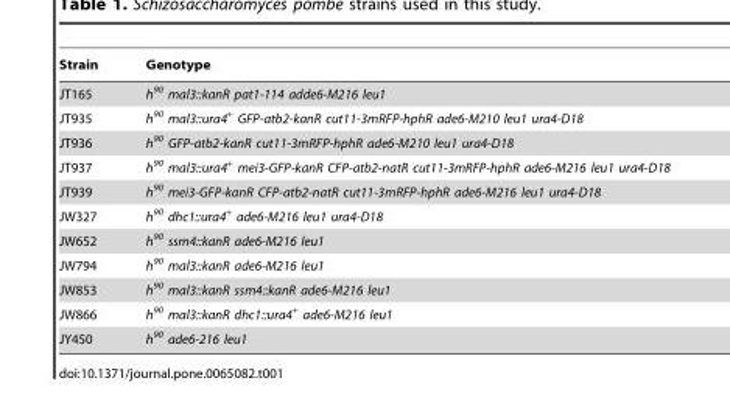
<table><thead><tr><td>Strain</td><td>Genotype</td></tr></thead><tbody><tr><td>JT165</td><td>h<sup>90</sup> mal3::kanR pat1-114 adde6-M216 leu1</td></tr><tr><td>JT935</td><td>h<sup>90</sup> mal3::ura4<sup>+</sup> GFP-atb2-kanR cut11-3mRFP-hphR ade6-M210 leu1 ura4-D18</td></tr><tr><td>JT936</td><td>h<sup>90</sup> GFP-atb2-kanR cut11-3mRFP-hphR ade6-M210 leu1 ura4-D18</td></tr><tr><td>JT937</td><td>h<sup>90</sup> mal3::ura4<sup>+</sup> mei3-GFP-kanR CFP-atb2-natR cut11-3mRFP-hphR ade6-M216 leu1 ura4-D18</td></tr><tr><td>JT939</td><td>h<sup>90</sup> mei3-GFP-kanR CFP-atb2-natR cut11-3mRFP-hphR ade6-M216 leu1 ura4-D18</td></tr><tr><td>JW327</td><td>h<sup>90</sup> dhc1::ura4<sup>+</sup> ade6-M216 leu1 ura4-D18</td></tr><tr><td>JW652</td><td>h<sup>90</sup> ssm4::kanR ade6-M216 leu1</td></tr><tr><td>JW794</td><td>h<sup>90</sup> mal3::kanR ade6-M216 leu1</td></tr><tr><td>JW853</td><td>h<sup>90</sup> mal3::kanR ssm4::kanR ade6-M216 leu1</td></tr><tr><td>JW866</td><td>h<sup>90</sup> mal3::kanR dhc1::ura4<sup>+</sup> ade6-M216 leu1</td></tr><tr><td>JY450</td><td>h<sup>90</sup> ade6-216 leu1</td></tr></tbody></table>